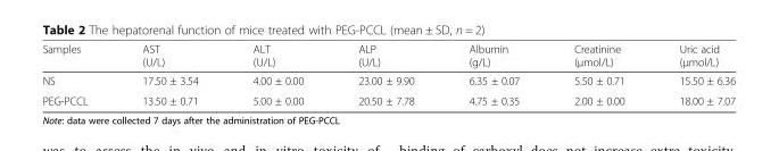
<table><thead><tr><td>Samples</td><td>AST (U/L)</td><td>ALT (U/L)</td><td>ALP (U/L)</td><td>Albumin (g/L)</td><td>Creatinine (μmol/L)</td><td>Uric acid (μmol/L)</td></tr></thead><tbody><tr><td>NS</td><td>17.50 ± 3.54</td><td>4.00 ± 0.00</td><td>23.00 ± 9.90</td><td>6.35 ± 0.07</td><td>5.50 ± 0.71</td><td>15.50 ± 6.36</td></tr><tr><td>PEG-PCCL</td><td>13.50 ± 0.71</td><td>5.00 ± 0.00</td><td>20.50 ± 7.78</td><td>4.75 ± 0.35</td><td>2.00 ± 0.00</td><td>18.00 ± 7.07</td></tr></tbody></table>